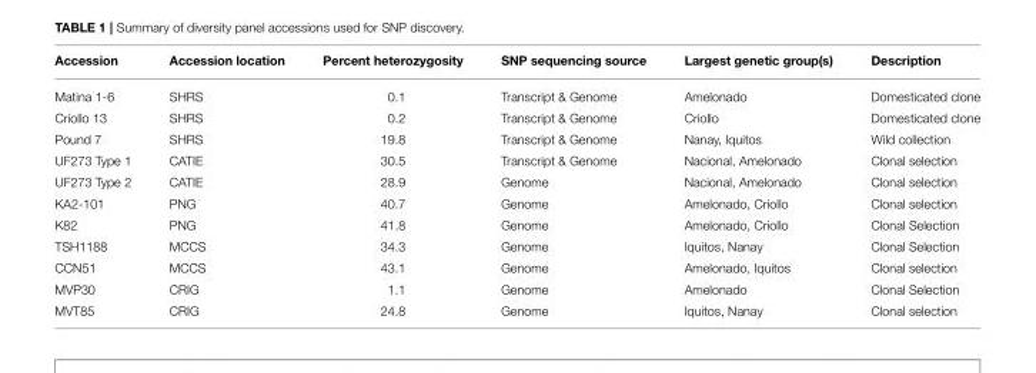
<table><thead><tr><td>Accession</td><td>Accession location</td><td>Percent heterozygosity</td><td>SNP sequencing source</td><td>Largest genetic group(s)</td><td>Description</td></tr></thead><tbody><tr><td>Matina 1-6</td><td>SHRS</td><td>0.1</td><td>Transcript &amp; Genome</td><td>Amelonado</td><td>Domesticated clone</td></tr><tr><td>Criollo 13</td><td>SHRS</td><td>0.2</td><td>Transcript &amp; Genome</td><td>Criollo</td><td>Domesticated clone</td></tr><tr><td>Pound 7</td><td>SHRS</td><td>19.8</td><td>Transcript &amp; Genome</td><td>Nanay, Iquitos</td><td>Wild collection</td></tr><tr><td>UF273 Type 1</td><td>CATIE</td><td>30.5</td><td>Transcript &amp; Genome</td><td>Nacional, Amelonado</td><td>Clonal selection</td></tr><tr><td>UF273 Type 2</td><td>CATIE</td><td>28.9</td><td>Genome</td><td>Nacional, Amelonado</td><td>Clonal selection</td></tr><tr><td>KA2-101</td><td>PNG</td><td>40.7</td><td>Genome</td><td>Amelonado, Criollo</td><td>Clonal selection</td></tr><tr><td>K82</td><td>PNG</td><td>41.8</td><td>Genome</td><td>Amelonado, Criollo</td><td>Clonal Selection</td></tr><tr><td>TSH1188</td><td>MCCS</td><td>34.3</td><td>Genome</td><td>Iquitos, Nanay</td><td>Clonal Selection</td></tr><tr><td>CCN51</td><td>MCCS</td><td>43.1</td><td>Genome</td><td>Amelonado, Iquitos</td><td>Clonal selection</td></tr><tr><td>MVP30</td><td>CRIG</td><td>1.1</td><td>Genome</td><td>Amelonado</td><td>Clonal Selection</td></tr><tr><td>MVT85</td><td>CRIG</td><td>24.8</td><td>Genome</td><td>Iquitos, Nanay</td><td>Clonal selection</td></tr></tbody></table>